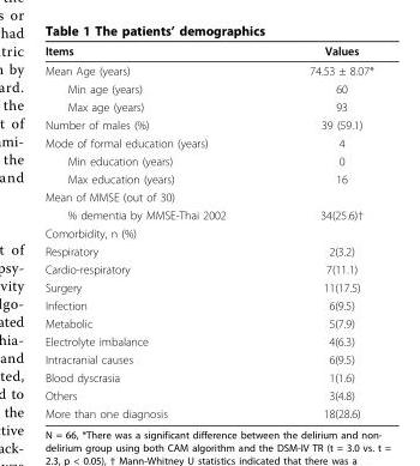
<table><thead><tr><td>Items</td><td>Values</td></tr></thead><tbody><tr><td>Mean Age (years)</td><td>74.53 ± 8.07*</td></tr><tr><td>Min age (years)</td><td>60</td></tr><tr><td>Max age (years)</td><td>93</td></tr><tr><td>Number of males (%)</td><td>39 (59.1)</td></tr><tr><td>Mode of formal education (years)</td><td>4</td></tr><tr><td>Min education (years)</td><td>0</td></tr><tr><td>Max education (years)</td><td>16</td></tr><tr><td colspan="2">Mean of MMSE (out of 30)</td></tr><tr><td>% dementia by MMSE-Thai 2002</td><td>34(25.6)†</td></tr><tr><td colspan="2">Comorbidity, n (%)</td></tr><tr><td>Respiratory</td><td>2(3.2)</td></tr><tr><td>Cardio-respiratory</td><td>7(11.1)</td></tr><tr><td>Surgery</td><td>11(17.5)</td></tr><tr><td>Infection</td><td>6(9.5)</td></tr><tr><td>Metabolic</td><td>5(7.9)</td></tr><tr><td>Electrolyte imbalance</td><td>4(6.3)</td></tr><tr><td>Intracranial causes</td><td>6(9.5)</td></tr><tr><td>Blood dyscrasia</td><td>1(1.6)</td></tr><tr><td>Others</td><td>3(4.8)</td></tr><tr><td>More than one diagnosis</td><td>18(28.6)</td></tr></tbody></table>